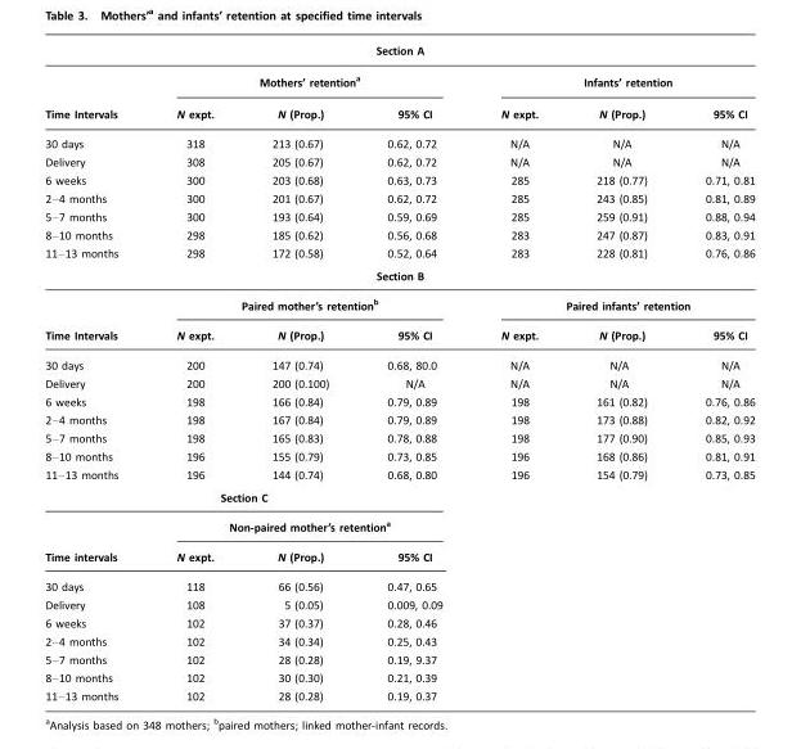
<table><thead><tr><td colspan="7">Section A</td></tr><tr><td rowspan="2">Time Intervals</td><td colspan="3">Mothers’ retention<sup>a</sup></td><td colspan="3">Infants’ retention</td></tr><tr><td>N expt.</td><td>N (Prop.)</td><td>95% CI</td><td>N expt.</td><td>N (Prop.)</td><td>95% CI</td></tr></thead><tbody><tr><td>30 days</td><td>318</td><td>213 (0.67)</td><td>0.62, 0.72</td><td>N/A</td><td>N/A</td><td>N/A</td></tr><tr><td>Delivery</td><td>308</td><td>205 (0.67)</td><td>0.62, 0.72</td><td>N/A</td><td>N/A</td><td>N/A</td></tr><tr><td>6 weeks</td><td>300</td><td>203 (0.68)</td><td>0.63, 0.73</td><td>285</td><td>218 (0.77)</td><td>0.71, 0.81</td></tr><tr><td>2–4 months</td><td>300</td><td>201 (0.67)</td><td>0.62, 0.72</td><td>285</td><td>243 (0.85)</td><td>0.81, 0.89</td></tr><tr><td>5–7 months</td><td>300</td><td>193 (0.64)</td><td>0.59, 0.69</td><td>285</td><td>259 (0.91)</td><td>0.88, 0.94</td></tr><tr><td>8–10 months</td><td>298</td><td>185 (0.62)</td><td>0.56, 0.68</td><td>283</td><td>247 (0.87)</td><td>0.83, 0.91</td></tr><tr><td>11–13 months</td><td>298</td><td>172 (0.58)</td><td>0.52, 0.64</td><td>283</td><td>228 (0.81)</td><td>0.76, 0.86</td></tr><tr><td colspan="7">Section B</td></tr><tr><td></td><td colspan="3">Paired mother’s retentionb</td><td colspan="3">Paired infants’ retention</td></tr><tr><td>Time Intervals</td><td>N expt.</td><td>N (Prop.)</td><td>95% CI</td><td>N expt.</td><td>N (Prop.)</td><td>95% CI</td></tr><tr><td>30 days</td><td>200</td><td>147 (0.74)</td><td>0.68, 80.0</td><td>N/A</td><td>N/A</td><td>N/A</td></tr><tr><td>Delivery</td><td>200</td><td>200 (0.100)</td><td>N/A</td><td>N/A</td><td>N/A</td><td>N/A</td></tr><tr><td>6 weeks</td><td>198</td><td>166 (0.84)</td><td>0.79, 0.89</td><td>198</td><td>161 (0.82)</td><td>0.76, 0.86</td></tr><tr><td>2–4 months</td><td>198</td><td>167 (0.84)</td><td>0.79, 0.89</td><td>198</td><td>173 (0.88)</td><td>0.82, 0.92</td></tr><tr><td>5–7 months</td><td>198</td><td>165 (0.83)</td><td>0.78, 0.88</td><td>198</td><td>177 (0.90)</td><td>0.85, 0.93</td></tr><tr><td>8–10 months</td><td>196</td><td>155 (0.79)</td><td>0.73, 0.85</td><td>196</td><td>168 (0.86)</td><td>0.81, 0.91</td></tr><tr><td>11–13 months</td><td>196</td><td>144 (0.74)</td><td>0.68, 0.80</td><td>196</td><td>154 (0.79)</td><td>0.73, 0.85</td></tr><tr><td colspan="7">Section C</td></tr><tr><td></td><td colspan="3">Non-paired mother’s retentiona</td><td></td><td></td><td></td></tr><tr><td>Time intervals</td><td>N expt.</td><td>N (Prop.)</td><td>95% CI</td><td></td><td></td><td></td></tr><tr><td>30 days</td><td>118</td><td>66 (0.56)</td><td>0.47, 0.65</td><td></td><td></td><td></td></tr><tr><td>Delivery</td><td>108</td><td>5 (0.05)</td><td>0.009, 0.09</td><td></td><td></td><td></td></tr><tr><td>6 weeks</td><td>102</td><td>37 (0.37)</td><td>0.28, 0.46</td><td></td><td></td><td></td></tr><tr><td>2–4 months</td><td>102</td><td>34 (0.34)</td><td>0.25, 0.43</td><td></td><td></td><td></td></tr><tr><td>5–7 months</td><td>102</td><td>28 (0.28)</td><td>0.19, 9.37</td><td></td><td></td><td></td></tr><tr><td>8–10 months</td><td>102</td><td>30 (0.30)</td><td>0.21, 0.39</td><td></td><td></td><td></td></tr><tr><td>11–13 months</td><td>102</td><td>28 (0.28)</td><td>0.19, 0.37</td><td></td><td></td><td></td></tr></tbody></table>